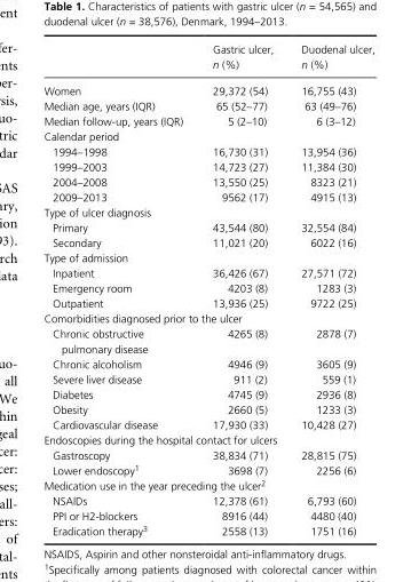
<table><thead><tr><td></td><td>Gastric ulcer, n (%)</td><td>Duodenal ulcer, n (%)</td></tr></thead><tbody><tr><td>Women</td><td>29,372 (54)</td><td>16,755 (43)</td></tr><tr><td>Median age, years (IQR)</td><td>65 (52–77)</td><td>63 (49–76)</td></tr><tr><td>Median follow- up, years (IQR)</td><td>5 (2–10)</td><td>6 (3–12)</td></tr><tr><td colspan="3">Calendar period</td></tr><tr><td>1994–1998</td><td>16,730 (31)</td><td>13,954 (36)</td></tr><tr><td>1999–2003</td><td>14,723 (27)</td><td>11,384 (30)</td></tr><tr><td>2004–2008</td><td>13,550 (25)</td><td>8323 (21)</td></tr><tr><td>2009–2013</td><td>9562 (17)</td><td>4915 (13)</td></tr><tr><td colspan="3">Type of ulcer diagnosis</td></tr><tr><td>Primary</td><td>43,544 (80)</td><td>32,554 (84)</td></tr><tr><td>Secondary</td><td>11,021 (20)</td><td>6022 (16)</td></tr><tr><td colspan="3">Type of admission</td></tr><tr><td>Inpatient</td><td>36,426 (67)</td><td>27,571 (72)</td></tr><tr><td>Emergency room</td><td>4203 (8)</td><td>1283 (3)</td></tr><tr><td>Outpatient</td><td>13,936 (25)</td><td>9722 (25)</td></tr><tr><td colspan="3">Comorbidities diagnosed prior to the ulcer</td></tr><tr><td>Chronic obstructive pulmonary disease</td><td>4265 (8)</td><td>2878 (7)</td></tr><tr><td>Chronic alcoholism</td><td>4946 (9)</td><td>3605 (9)</td></tr><tr><td>Severe liver disease</td><td>911 (2)</td><td>559 (1)</td></tr><tr><td>Diabetes</td><td>4745 (9)</td><td>2936 (8)</td></tr><tr><td>Obesity</td><td>2660 (5)</td><td>1233 (3)</td></tr><tr><td>Cardiovascular disease</td><td>17,930 (33)</td><td>10,428 (27)</td></tr><tr><td colspan="3">Endoscopies during the hospital contact for ulcers</td></tr><tr><td>Gastroscopy</td><td>38,834 (71)</td><td>28,815 (75)</td></tr><tr><td>Lower endoscopy1</td><td>3698 (7)</td><td>2256 (6)</td></tr><tr><td colspan="3">Medication use in the year preceding the ulcer2</td></tr><tr><td>NSAIDs</td><td>12,378 (61)</td><td>6,793 (60)</td></tr><tr><td>PPI or H2- blockers</td><td>8916 (44)</td><td>4480 (40)</td></tr><tr><td>Eradication therapy3</td><td>2558 (13)</td><td>1751 (16)</td></tr></tbody></table>